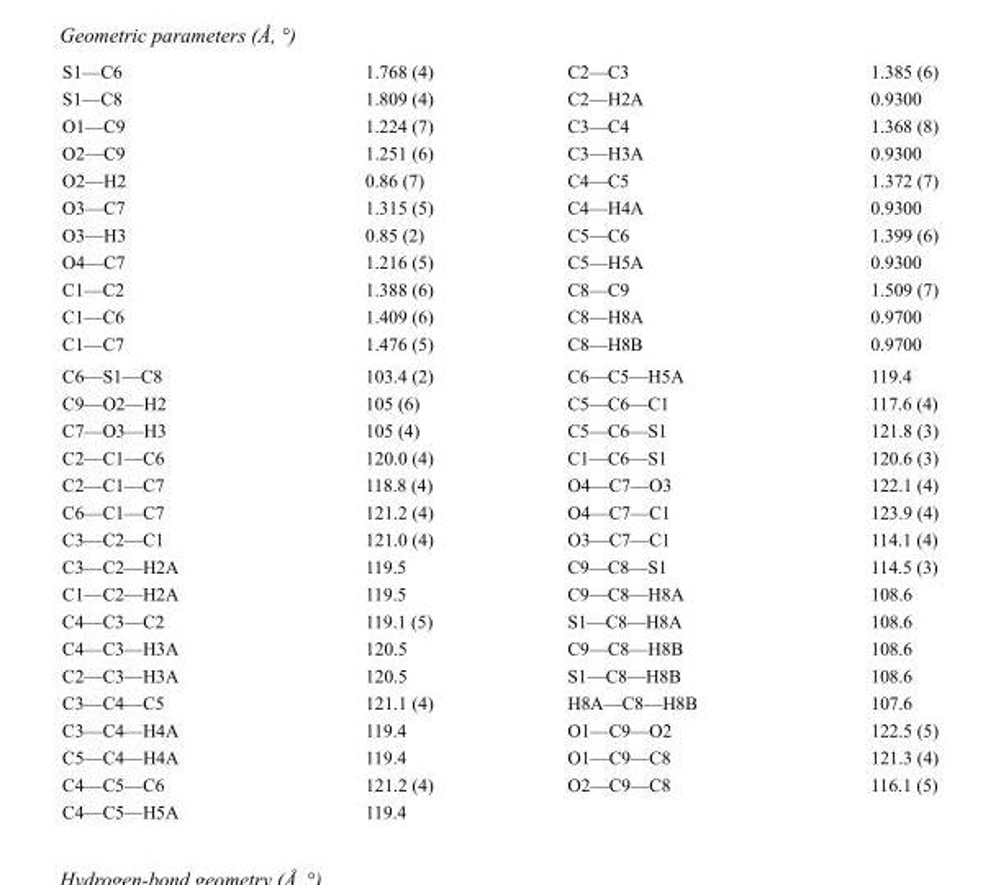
<table><tbody><tr><td>S1—C6</td><td>1.768 (4)</td><td>C2—C3</td><td>1.385 (6)</td></tr><tr><td>S1—C8</td><td>1.809 (4)</td><td>C2—H2A</td><td>0.9300</td></tr><tr><td>O1—C9</td><td>1.224 (7)</td><td>C3—C4</td><td>1.368 (8)</td></tr><tr><td>O2—C9</td><td>1.251 (6)</td><td>C3—H3A</td><td>0.9300</td></tr><tr><td>O2—H2</td><td>0.86 (7)</td><td>C4—C5</td><td>1.372 (7)</td></tr><tr><td>O3—C7</td><td>1.315 (5)</td><td>C4—H4A</td><td>0.9300</td></tr><tr><td>O3—H3</td><td>0.85 (2)</td><td>C5—C6</td><td>1.399 (6)</td></tr><tr><td>O4—C7</td><td>1.216 (5)</td><td>C5—H5A</td><td>0.9300</td></tr><tr><td>C1—C2</td><td>1.388 (6)</td><td>C8—C9</td><td>1.509 (7)</td></tr><tr><td>C1—C6</td><td>1.409 (6)</td><td>C8—H8A</td><td>0.9700</td></tr><tr><td>C1—C7</td><td>1.476 (5)</td><td>C8—H8B</td><td>0.9700</td></tr><tr><td>C6—S1—C8</td><td>103.4 (2)</td><td>C6—C5—H5A</td><td>119.4</td></tr><tr><td>C9—O2—H2</td><td>105 (6)</td><td>C5—C6—C1</td><td>117.6 (4)</td></tr><tr><td>C7—O3—H3</td><td>105 (4)</td><td>C5—C6—S1</td><td>121.8 (3)</td></tr><tr><td>C2—C1—C6</td><td>120.0 (4)</td><td>C1—C6—S1</td><td>120.6 (3)</td></tr><tr><td>C2—C1—C7</td><td>118.8 (4)</td><td>O4—C7—O3</td><td>122.1 (4)</td></tr><tr><td>C6—C1—C7</td><td>121.2 (4)</td><td>O4—C7—C1</td><td>123.9 (4)</td></tr><tr><td>C3—C2—C1</td><td>121.0 (4)</td><td>O3—C7—C1</td><td>114.1 (4)</td></tr><tr><td>C3—C2—H2A</td><td>119.5</td><td>C9—C8—S1</td><td>114.5 (3)</td></tr><tr><td>C1—C2—H2A</td><td>119.5</td><td>C9—C8—H8A</td><td>108.6</td></tr><tr><td>C4—C3—C2</td><td>119.1 (5)</td><td>S1—C8—H8A</td><td>108.6</td></tr><tr><td>C4—C3—H3A</td><td>120.5</td><td>C9—C8—H8B</td><td>108.6</td></tr><tr><td>C2—C3—H3A</td><td>120.5</td><td>S1—C8—H8B</td><td>108.6</td></tr><tr><td>C3—C4—C5</td><td>121.1 (4)</td><td>H8A—C8—H8B</td><td>107.6</td></tr><tr><td>C3—C4—H4A</td><td>119.4</td><td>O1—C9—O2</td><td>122.5 (5)</td></tr><tr><td>C5—C4—H4A</td><td>119.4</td><td>O1—C9—C8</td><td>121.3 (4)</td></tr><tr><td>C4—C5—C6</td><td>121.2 (4)</td><td>O2—C9—C8</td><td>116.1 (5)</td></tr><tr><td>C4—C5—H5A</td><td>119.4</td><td></td><td></td></tr></tbody></table>